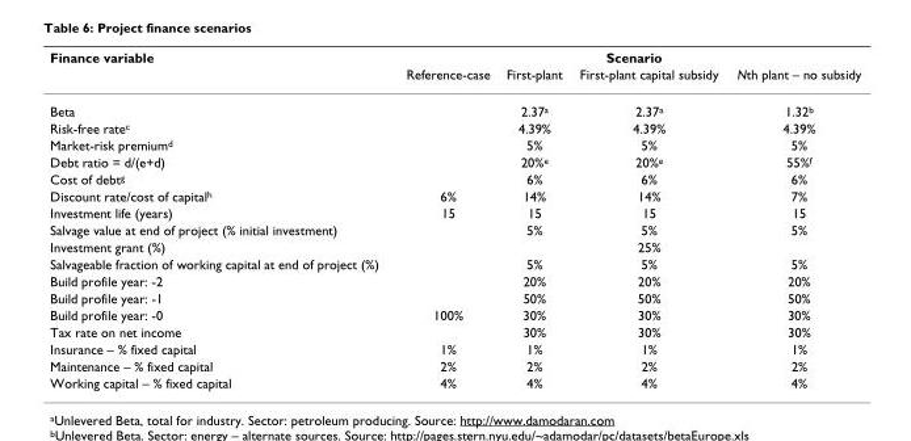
<table><thead><tr><td rowspan="2">Finance variable</td><td colspan="4">Scenario</td></tr><tr><td>Reference-case</td><td>First-plant</td><td>First-plant capital subsidy</td><td>Nth plant – no subsidy</td></tr></thead><tbody><tr><td>Beta</td><td></td><td>2.37<sup>a</sup></td><td>2.37<sup>a</sup></td><td>1.32<sup>b</sup></td></tr><tr><td>Risk-free rate<sup>c</sup></td><td></td><td>4.39%</td><td>4.39%</td><td>4.39%</td></tr><tr><td>Market-risk premium<sup>d</sup></td><td></td><td>5%</td><td>5%</td><td>5%</td></tr><tr><td>Debt ratio = d/(e+d)</td><td></td><td>20%<sup>e</sup></td><td>20%<sup>e</sup></td><td>55%<sup>f</sup></td></tr><tr><td>Cost of debt<sup>g</sup></td><td></td><td>6%</td><td>6%</td><td>6%</td></tr><tr><td>Discount rate/cost of capital<sup>h</sup></td><td>6%</td><td>14%</td><td>14%</td><td>7%</td></tr><tr><td>Investment life (years)</td><td>15</td><td>15</td><td>15</td><td>15</td></tr><tr><td>Salvage value at end of project (% initial investment)</td><td></td><td>5%</td><td>5%</td><td>5%</td></tr><tr><td>Investment grant (%)</td><td></td><td></td><td>25%</td><td></td></tr><tr><td>Salvageable fraction of working capital at end of project (%)</td><td></td><td>5%</td><td>5%</td><td>5%</td></tr><tr><td>Build profile year: -2</td><td></td><td>20%</td><td>20%</td><td>20%</td></tr><tr><td>Build profile year: -1</td><td></td><td>50%</td><td>50%</td><td>50%</td></tr><tr><td>Build profile year: -0</td><td>100%</td><td>30%</td><td>30%</td><td>30%</td></tr><tr><td>Tax rate on net income</td><td></td><td>30%</td><td>30%</td><td>30%</td></tr><tr><td>Insurance – % fixed capital</td><td>1%</td><td>1%</td><td>1%</td><td>1%</td></tr><tr><td>Maintenance – % fixed capital</td><td>2%</td><td>2%</td><td>2%</td><td>2%</td></tr><tr><td>Working capital – % fixed capital</td><td>4%</td><td>4%</td><td>4%</td><td>4%</td></tr></tbody></table>